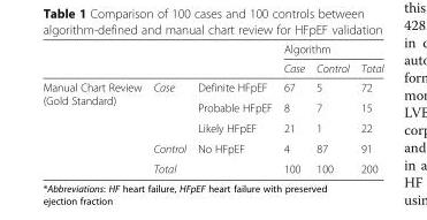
<table><thead><tr><td rowspan="2"></td><td rowspan="2"></td><td rowspan="2"></td><td colspan="3">Algorithm</td></tr><tr><td>Case</td><td>Control</td><td>Total</td></tr></thead><tbody><tr><td rowspan="5">Manual Chart Review (Gold Standard)</td><td rowspan="3">Case</td><td>Definite HFpEF</td><td>67</td><td>5</td><td>72</td></tr><tr><td>Probable HFpEF</td><td>8</td><td>7</td><td>15</td></tr><tr><td>Likely HFpEF</td><td>21</td><td>1</td><td>22</td></tr><tr><td>Control</td><td>No HFpEF</td><td>4</td><td>87</td><td>91</td></tr><tr><td>Total</td><td></td><td>100</td><td>100</td><td>200</td></tr></tbody></table>